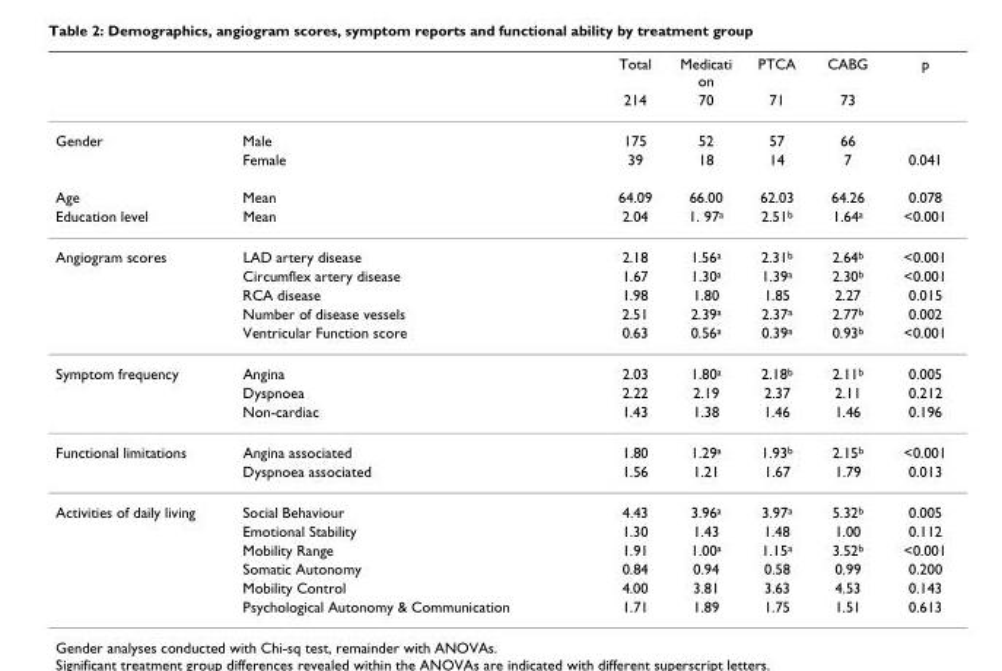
<table><thead><tr><td rowspan="2"></td><td rowspan="2"></td><td rowspan="2">Total 214</td><td rowspan="2">Medicati on 70</td><td rowspan="2">PTCA 71</td><td rowspan="2">CABG 73</td><td rowspan="2">p</td></tr><tr></tr></thead><tbody><tr><td rowspan="2">Gender</td><td>Male</td><td>175</td><td>52</td><td>57</td><td>66</td><td></td></tr><tr><td>Female</td><td>39</td><td>18</td><td>14</td><td>7</td><td>0.041</td></tr><tr><td>Age</td><td>Mean</td><td>64.09</td><td>66.00</td><td>62.03</td><td>64.26</td><td>0.078</td></tr><tr><td>Education level</td><td>Mean</td><td>2.04</td><td>1. 97a</td><td>2.51b</td><td>1.64a</td><td>&lt;0.001</td></tr><tr><td rowspan="5">Angiogram scores</td><td>LAD artery disease</td><td>2.18</td><td>1.56<sup>a</sup></td><td>2.31<sup>b</sup></td><td>2.64<sup>b</sup></td><td>&lt;0.001</td></tr><tr><td>Circumflex artery disease</td><td>1.67</td><td>1.30<sup>a</sup></td><td>1.39<sup>a</sup></td><td>2.30<sup>b</sup></td><td>&lt;0.001</td></tr><tr><td>RCA disease</td><td>1.98</td><td>1.80</td><td>1.85</td><td>2.27</td><td>0.015</td></tr><tr><td>Number of disease vessels</td><td>2.51</td><td>2.39<sup>a</sup></td><td>2.37<sup>a</sup></td><td>2.77<sup>b</sup></td><td>0.002</td></tr><tr><td>Ventricular Function score</td><td>0.63</td><td>0.56<sup>a</sup></td><td>0.39<sup>a</sup></td><td>0.93<sup>b</sup></td><td>&lt;0.001</td></tr><tr><td rowspan="3">Symptom frequency</td><td>Angina</td><td>2.03</td><td>1.80<sup>a</sup></td><td>2.18<sup>b</sup></td><td>2.11<sup>b</sup></td><td>0.005</td></tr><tr><td>Dyspnoea</td><td>2.22</td><td>2.19</td><td>2.37</td><td>2.11</td><td>0.212</td></tr><tr><td>Non-cardiac</td><td>1.43</td><td>1.38</td><td>1.46</td><td>1.46</td><td>0.196</td></tr><tr><td rowspan="2">Functional limitations</td><td>Angina associated</td><td>1.80</td><td>1.29<sup>a</sup></td><td>1.93<sup>b</sup></td><td>2.15<sup>b</sup></td><td>&lt;0.001</td></tr><tr><td>Dyspnoea associated</td><td>1.56</td><td>1.21</td><td>1.67</td><td>1.79</td><td>0.013</td></tr><tr><td rowspan="6">Activities of daily living</td><td>Social Behaviour</td><td>4.43</td><td>3.96<sup>a</sup></td><td>3.97<sup>a</sup></td><td>5.32<sup>b</sup></td><td>0.005</td></tr><tr><td>Emotional Stability</td><td>1.30</td><td>1.43</td><td>1.48</td><td>1.00</td><td>0.112</td></tr><tr><td>Mobility Range</td><td>1.91</td><td>1.00<sup>a</sup></td><td>1.15<sup>a</sup></td><td>3.52<sup>b</sup></td><td>&lt;0.001</td></tr><tr><td>Somatic Autonomy</td><td>0.84</td><td>0.94</td><td>0.58</td><td>0.99</td><td>0.200</td></tr><tr><td>Mobility Control</td><td>4.00</td><td>3.81</td><td>3.63</td><td>4.53</td><td>0.143</td></tr><tr><td>Psychological Autonomy &amp; Communication</td><td>1.71</td><td>1.89</td><td>1.75</td><td>1.51</td><td>0.613</td></tr></tbody></table>